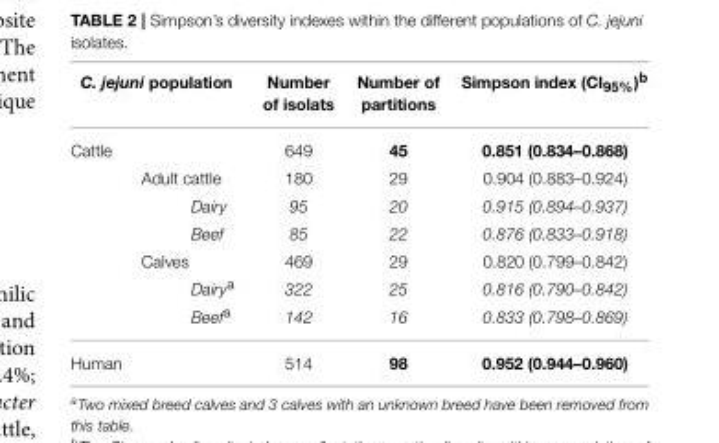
<table><thead><tr><td colspan="2">C. jejuni population</td><td rowspan="2">Number of isolats 649</td><td rowspan="2">Number of partitions 45</td><td rowspan="2">Simpson index (CI<sub>95%</sub>)<sup>b</sup> 0.851 (0.834–0.868)</td></tr><tr><td>Cattle</td><td></td></tr></thead><tbody><tr><td></td><td>Adult cattle</td><td>180</td><td>29</td><td>0.904 (0.883–0.924)</td></tr><tr><td></td><td>Dairy</td><td>95</td><td>20</td><td>0.915 (0.894–0.937)</td></tr><tr><td></td><td>Beef</td><td>85</td><td>22</td><td>0.876 (0.833–0.918)</td></tr><tr><td></td><td>Calves</td><td>469</td><td>29</td><td>0.820 (0.799–0.842)</td></tr><tr><td></td><td>Dairy<sup>a</sup></td><td>322</td><td>25</td><td>0.816 (0.790–0.842)</td></tr><tr><td></td><td>Beef<sup>a</sup></td><td>142</td><td>16</td><td>0.833 (0.798–0.869)</td></tr><tr><td>Human</td><td></td><td>514</td><td>98</td><td>0.952 (0.944–0.960)</td></tr></tbody></table>